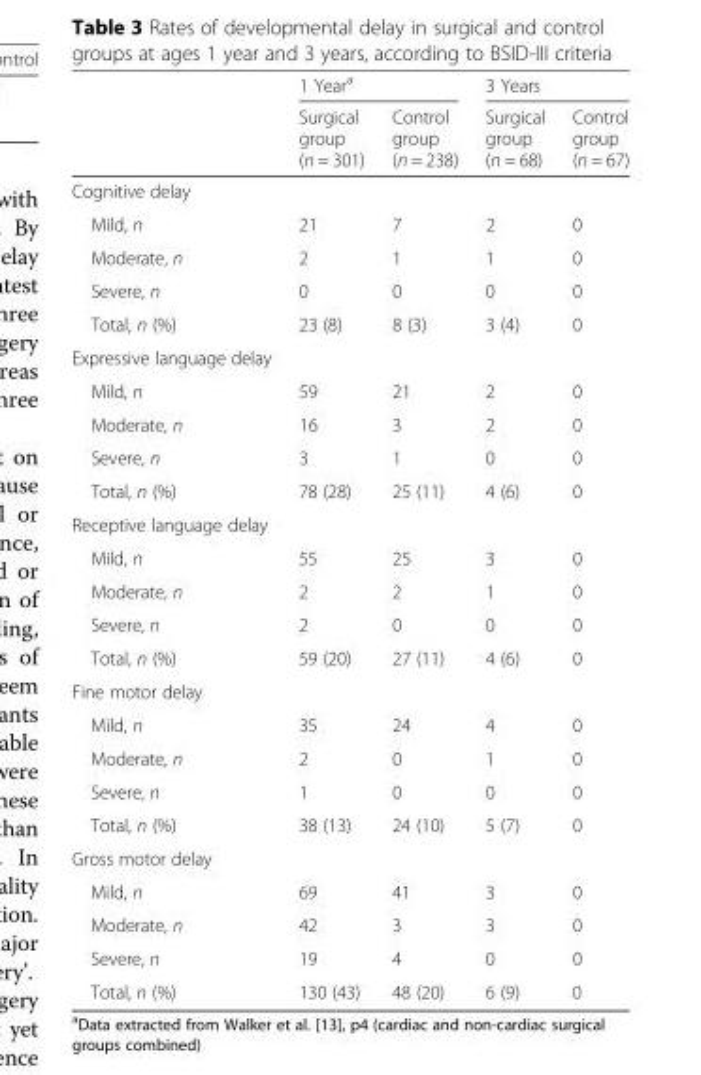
<table><thead><tr><td rowspan="2"></td><td colspan="2">1 Year<sup>a</sup></td><td colspan="2">3 Years</td></tr><tr><td>Surgical group (n = 301)</td><td>Control group (n = 238)</td><td>Surgical group (n = 68)</td><td>Control group (n = 67)</td></tr></thead><tbody><tr><td colspan="5">Cognitive delay</td></tr><tr><td>Mild, n</td><td>21</td><td>7</td><td>2</td><td>0</td></tr><tr><td>Moderate, n</td><td>2</td><td>1</td><td>1</td><td>0</td></tr><tr><td>Severe, n</td><td>0</td><td>0</td><td>0</td><td>0</td></tr><tr><td>Total, n (%)</td><td>23 (8)</td><td>8 (3)</td><td>3 (4)</td><td>0</td></tr><tr><td colspan="5">Expressive language delay</td></tr><tr><td>Mild, n</td><td>59</td><td>21</td><td>2</td><td>0</td></tr><tr><td>Moderate, n</td><td>16</td><td>3</td><td>2</td><td>0</td></tr><tr><td>Severe, n</td><td>3</td><td>1</td><td>0</td><td>0</td></tr><tr><td>Total, n (%)</td><td>78 (28)</td><td>25 (11)</td><td>4 (6)</td><td>0</td></tr><tr><td colspan="5">Receptive language delay</td></tr><tr><td>Mild, n</td><td>55</td><td>25</td><td>3</td><td>0</td></tr><tr><td>Moderate, n</td><td>2</td><td>2</td><td>1</td><td>0</td></tr><tr><td>Severe, n</td><td>2</td><td>0</td><td>0</td><td>0</td></tr><tr><td>Total, n (%)</td><td>59 (20)</td><td>27 (11)</td><td>4 (6)</td><td>0</td></tr><tr><td colspan="5">Fine motor delay</td></tr><tr><td>Mild, n</td><td>35</td><td>24</td><td>4</td><td>0</td></tr><tr><td>Moderate, n</td><td>2</td><td>0</td><td>1</td><td>0</td></tr><tr><td>Severe, n</td><td>1</td><td>0</td><td>0</td><td>0</td></tr><tr><td>Total, n (%)</td><td>38 (13)</td><td>24 (10)</td><td>5 (7)</td><td>0</td></tr><tr><td colspan="5">Gross motor delay</td></tr><tr><td>Mild, n</td><td>69</td><td>41</td><td>3</td><td>0</td></tr><tr><td>Moderate, n</td><td>42</td><td>3</td><td>3</td><td>0</td></tr><tr><td>Severe, n</td><td>19</td><td>4</td><td>0</td><td>0</td></tr><tr><td>Total, n (%)</td><td>130 (43)</td><td>48 (20)</td><td>6 (9)</td><td>0</td></tr></tbody></table>